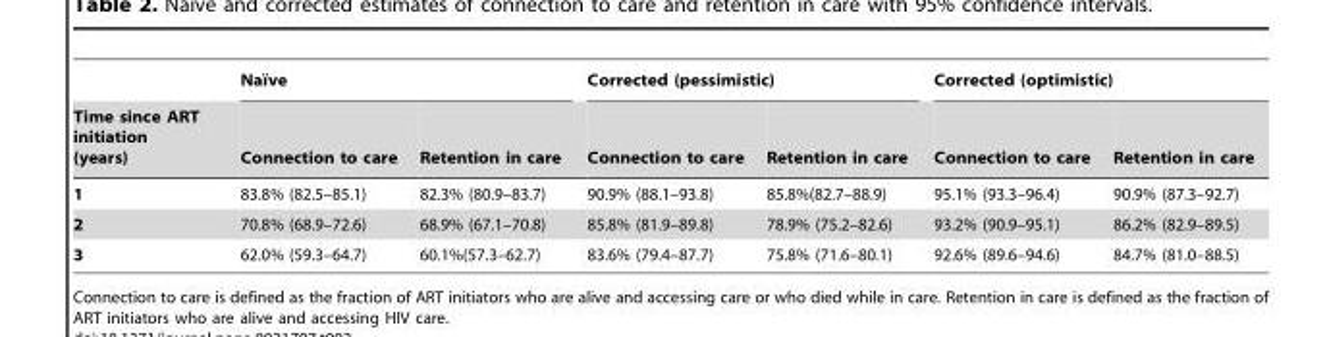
<table><thead><tr><td rowspan="2">Time since ART initiation (years)</td><td colspan="2">Naı¨ve</td><td colspan="2">Corrected (pessimistic)</td><td colspan="2">Corrected (optimistic)</td></tr><tr><td>Connection to care</td><td>Retention in care</td><td>Connection to care</td><td>Retention in care</td><td>Connection to care</td><td>Retention in care</td></tr></thead><tbody><tr><td>1</td><td>83.8% (82.5–85.1)</td><td>82.3% (80.9–83.7)</td><td>90.9% (88.1–93.8)</td><td>85.8%(82.7–88.9)</td><td>95.1% (93.3–96.4)</td><td>90.9% (87.3–92.7)</td></tr><tr><td>2</td><td>70.8% (68.9–72.6)</td><td>68.9% (67.1–70.8)</td><td>85.8% (81.9–89.8)</td><td>78.9% (75.2–82.6)</td><td>93.2% (90.9–95.1)</td><td>86.2% (82.9–89.5)</td></tr><tr><td>3</td><td>62.0% (59.3–64.7)</td><td>60.1%(57.3–62.7)</td><td>83.6% (79.4–87.7)</td><td>75.8% (71.6–80.1)</td><td>92.6% (89.6–94.6)</td><td>84.7% (81.0–88.5)</td></tr></tbody></table>